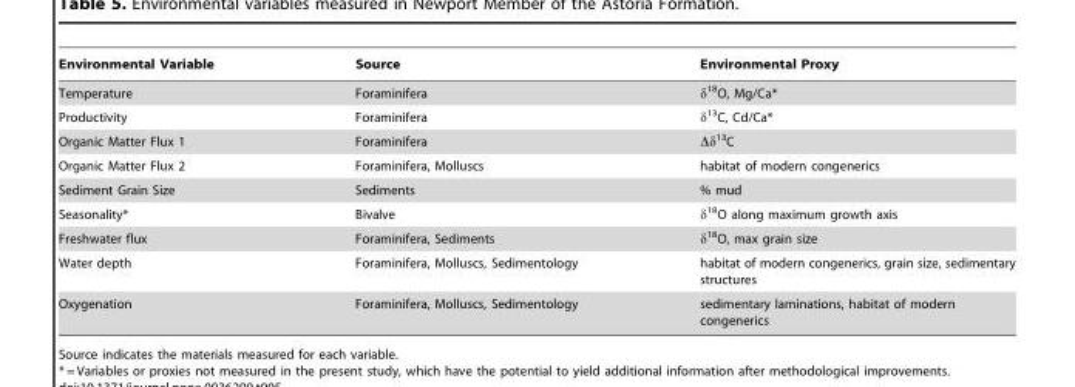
<table><thead><tr><td>Environmental Variable</td><td>Source</td><td>Environmental Proxy</td></tr></thead><tbody><tr><td>Temperature</td><td>Foraminifera</td><td>δ<sup>18</sup>O, Mg/Ca*</td></tr><tr><td>Productivity</td><td>Foraminifera</td><td>δ<sup>13</sup>C, Cd/Ca*</td></tr><tr><td>Organic Matter Flux 1</td><td>Foraminifera</td><td>Δδ<sup>13</sup>C</td></tr><tr><td>Organic Matter Flux 2</td><td>Foraminifera, Molluscs</td><td>habitat of modern congenerics</td></tr><tr><td>Sediment Grain Size</td><td>Sediments</td><td>% mud</td></tr><tr><td>Seasonality*</td><td>Bivalve</td><td>δ<sup>18</sup>O along maximum growth axis</td></tr><tr><td>Freshwater flux</td><td>Foraminifera, Sediments</td><td>δ<sup>18</sup>O, max grain size</td></tr><tr><td>Water depth</td><td>Foraminifera, Molluscs, Sedimentology</td><td>habitat of modern congenerics, grain size, sedimentary structures</td></tr><tr><td>Oxygenation</td><td>Foraminifera, Molluscs, Sedimentology</td><td>sedimentary laminations, habitat of modern congenerics</td></tr></tbody></table>